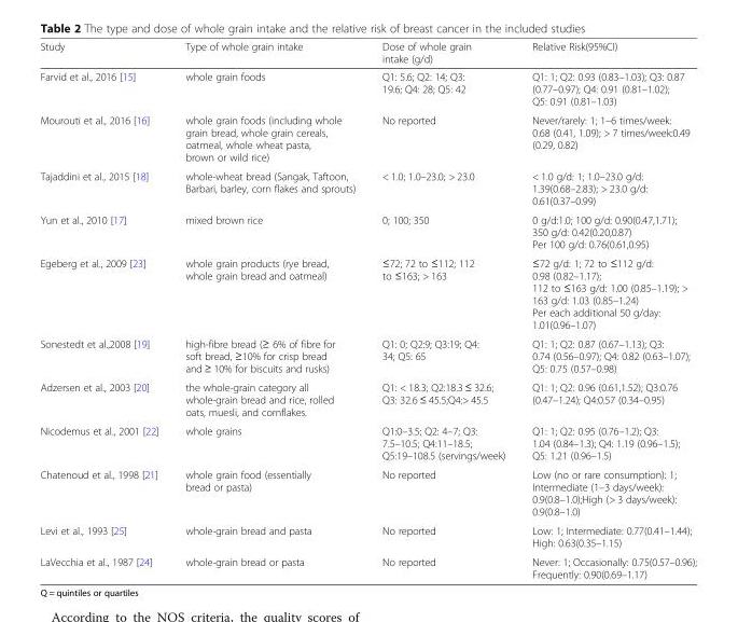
<table><thead><tr><td>Study</td><td>Type of whole grain intake</td><td>Dose of whole grain intake (g/d)</td><td>Relative Risk(95%CI)</td></tr></thead><tbody><tr><td>Farvid et al., 2016 [15]</td><td>whole grain foods</td><td>Q1: 5.6; Q2: 14; Q3: 19.6; Q4: 28; Q5: 42</td><td>Q1: 1; Q2: 0.93 (0.83–1.03); Q3: 0.87 (0.77–0.97); Q4: 0.91 (0.81–1.02); Q5: 0.91 (0.81–1.03)</td></tr><tr><td>Mourouti et al., 2016 [16]</td><td>whole grain foods (including whole grain bread, whole grain cereals, oatmeal, whole wheat pasta, brown or wild rice)</td><td>No reported</td><td>Never/rarely: 1; 1–6 times/week: 0.68 (0.41, 1.09); &gt; 7 times/week:0.49 (0.29, 0.82)</td></tr><tr><td>Tajaddini et al., 2015 [18]</td><td>whole-wheat bread (Sangak, Taftoon, Barbari, barley, corn flakes and sprouts)</td><td>&lt; 1.0; 1.0–23.0; &gt; 23.0</td><td>&lt; 1.0 g/d: 1; 1.0–23.0 g/d: 1.39(0.68–2.83); &gt; 23.0 g/d: 0.61(0.37–0.99)</td></tr><tr><td>Yun et al., 2010 [17]</td><td>mixed brown rice</td><td>0; 100; 350</td><td>0 g/d:1.0; 100 g/d: 0.90(0.47,1.71); 350 g/d: 0.42(0.20,0.87) Per 100 g/d: 0.76(0.61,0.95)</td></tr><tr><td>Egeberg et al., 2009 [23]</td><td>whole grain products (rye bread, whole grain bread and oatmeal)</td><td>≤72; 72 to ≤112; 112 to ≤163; &gt; 163</td><td>≤72 g/d: 1; 72 to ≤112 g/d: 0.98 (0.82–1.17); 112 to ≤163 g/d: 1.00 (0.85–1.19); &gt; 163 g/d: 1.03 (0.85–1.24) Per each additional 50 g/day: 1.01(0.96–1.07)</td></tr><tr><td>Sonestedt et al.,2008 [19]</td><td>high-fibre bread (≥ 6% of fibre for soft bread, ≥10% for crisp bread and ≥ 10% for biscuits and rusks)</td><td>Q1: 0; Q2:9; Q3:19; Q4: 34; Q5: 65</td><td>Q1: 1; Q2: 0.87 (0.67–1.13); Q3: 0.74 (0.56–0.97); Q4: 0.82 (0.63–1.07); Q5: 0.75 (0.57–0.98)</td></tr><tr><td>Adzersen et al., 2003 [20]</td><td>the whole-grain category all whole-grain bread and rice, rolled oats, muesli, and cornflakes.</td><td>Q1: &lt; 18.3; Q2:18.3 ≤ 32.6; Q3: 32.6 ≤ 45.5;Q4:&gt; 45.5</td><td>Q1: 1; Q2: 0.96 (0.61,1.52); Q3:0.76 (0.47–1.24); Q4:0.57 (0.34–0.95)</td></tr><tr><td>Nicodemus et al., 2001 [22]</td><td>whole grains</td><td>Q1:0–3.5; Q2: 4–7; Q3: 7.5–10.5; Q4:11–18.5; Q5:19–108.5 (servings/week)</td><td>Q1: 1; Q2: 0.95 (0.76–1.2); Q3: 1.04 (0.84–1.3); Q4: 1.19 (0.96–1.5); Q5: 1.21 (0.96–1.5)</td></tr><tr><td>Chatenoud et al., 1998 [21]</td><td>whole grain food (essentially bread or pasta)</td><td>No reported</td><td>Low (no or rare consumption): 1; Intermediate (1–3 days/week): 0.9(0.8–1.0);High (&gt; 3 days/week): 0.9(0.8–1.0)</td></tr><tr><td>Levi et al., 1993 [25]</td><td>whole-grain bread and pasta</td><td>No reported</td><td>Low: 1; Intermediate: 0.77(0.41–1.44); High: 0.63(0.35–1.15)</td></tr><tr><td>LaVecchia et al., 1987 [24]</td><td>whole-grain bread or pasta</td><td>No reported</td><td>Never: 1; Occasionally: 0.75(0.57–0.96); Frequently: 0.90(0.69–1.17)</td></tr></tbody></table>